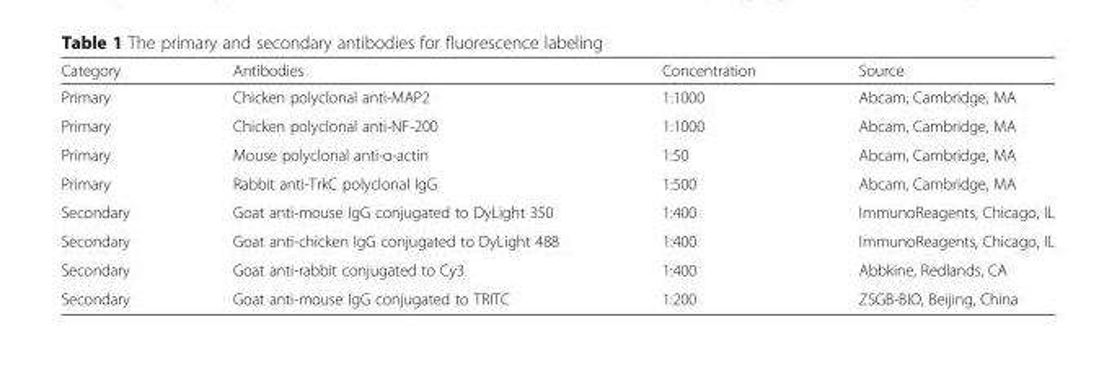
<table><thead><tr><td>Category</td><td>Antibodies</td><td>Concentration</td><td>Source</td></tr></thead><tbody><tr><td>Primary</td><td>Chicken polyclonal anti-MAP2</td><td>1:1000</td><td>Abcam, Cambridge, MA</td></tr><tr><td>Primary</td><td>Chicken polyclonal anti-NF-200</td><td>1:1000</td><td>Abcam, Cambridge, MA</td></tr><tr><td>Primary</td><td>Mouse polyclonal anti-α-actin</td><td>1:50</td><td>Abcam, Cambridge, MA</td></tr><tr><td>Primary</td><td>Rabbit anti-TrkC polyclonal IgG</td><td>1:500</td><td>Abcam, Cambridge, MA</td></tr><tr><td>Secondary</td><td>Goat anti-mouse IgG conjugated to DyLight 350</td><td>1:400</td><td>ImmunoReagents, Chicago, IL</td></tr><tr><td>Secondary</td><td>Goat anti-chicken IgG conjugated to DyLight 488</td><td>1:400</td><td>ImmunoReagents, Chicago, IL</td></tr><tr><td>Secondary</td><td>Goat anti-rabbit conjugated to Cy3</td><td>1:400</td><td>Abbkine, Redlands, CA</td></tr><tr><td>Secondary</td><td>Goat anti-mouse IgG conjugated to TRITC</td><td>1:200</td><td>ZSGB-BIO, Beijing, China</td></tr></tbody></table>